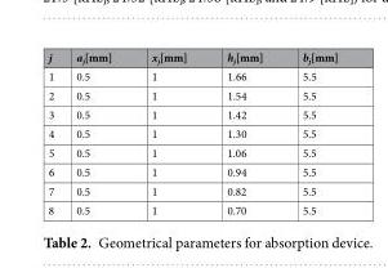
<table><thead><tr><td>j</td><td>a<sub>j</sub>[mm]</td><td>x<sub>j</sub>[mm]</td><td>h<sub>j</sub>[mm]</td><td>b<sub>j</sub>[mm]</td></tr></thead><tbody><tr><td>1</td><td>0.5</td><td>1</td><td>1.66</td><td>5.5</td></tr><tr><td>2</td><td>0.5</td><td>1</td><td>1.54</td><td>5.5</td></tr><tr><td>3</td><td>0.5</td><td>1</td><td>1.42</td><td>5.5</td></tr><tr><td>4</td><td>0.5</td><td>1</td><td>1.30</td><td>5.5</td></tr><tr><td>5</td><td>0.5</td><td>1</td><td>1.06</td><td>5.5</td></tr><tr><td>6</td><td>0.5</td><td>1</td><td>0.94</td><td>5.5</td></tr><tr><td>7</td><td>0.5</td><td>1</td><td>0.82</td><td>5.5</td></tr><tr><td>8</td><td>0.5</td><td>1</td><td>0.70</td><td>5.5</td></tr></tbody></table>